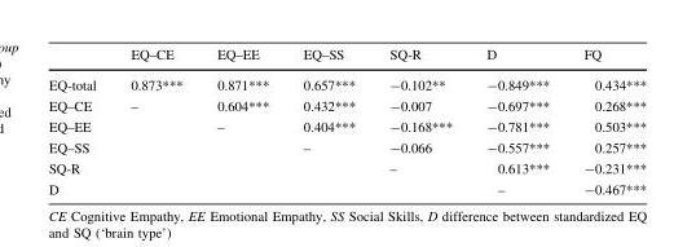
<table><thead><tr><td></td><td>EQ–CE</td><td>EQ–EE</td><td>EQ–SS</td><td>SQ-R</td><td>D</td><td>FQ</td></tr></thead><tbody><tr><td>EQ-total</td><td>0.873***</td><td>0.871***</td><td>0.657***</td><td>-0.102**</td><td>-0.849***</td><td>0.434***</td></tr><tr><td>EQ–CE</td><td>–</td><td>0.604***</td><td>0.432***</td><td>-0.007</td><td>-0.697***</td><td>0.268***</td></tr><tr><td>EQ–EE</td><td></td><td>–</td><td>0.404***</td><td>-0.168***</td><td>-0.781***</td><td>0.503***</td></tr><tr><td>EQ–SS</td><td></td><td></td><td>–</td><td>-0.066</td><td>-0.557***</td><td>0.257***</td></tr><tr><td>SQ-R</td><td></td><td></td><td></td><td>–</td><td>0.613***</td><td>-0.231***</td></tr><tr><td>D</td><td></td><td></td><td></td><td></td><td>–</td><td>-0.467***</td></tr></tbody></table>